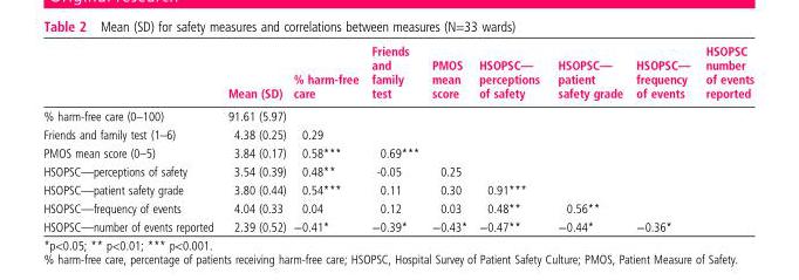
<table><thead><tr><td></td><td>Mean (SD)</td><td>% harm-free care</td><td>Friends and family test</td><td>PMOS mean score</td><td>HSOPSC— perceptions of safety</td><td>HSOPSC— patient safety grade</td><td>HSOPSC— frequency of events</td><td>HSOPSC number of events reported</td></tr></thead><tbody><tr><td>% harm-free care (0–100)</td><td>91.61 (5.97)</td><td></td><td></td><td></td><td></td><td></td><td></td><td></td></tr><tr><td>Friends and family test (1–6)</td><td>4.38 (0.25)</td><td>0.29</td><td></td><td></td><td></td><td></td><td></td><td></td></tr><tr><td>PMOS mean score (0–5)</td><td>3.84 (0.17)</td><td>0.58***</td><td>0.69***</td><td></td><td></td><td></td><td></td><td></td></tr><tr><td>HSOPSC—perceptions of safety</td><td>3.54 (0.39)</td><td>0.48**</td><td>-0.05</td><td>0.25</td><td></td><td></td><td></td><td></td></tr><tr><td>HSOPSC—patient safety grade</td><td>3.80 (0.44)</td><td>0.54***</td><td>0.11</td><td>0.30</td><td>0.91***</td><td></td><td></td><td></td></tr><tr><td>HSOPSC—frequency of events</td><td>4.04 (0.33</td><td>0.04</td><td>0.12</td><td>0.03</td><td>0.48**</td><td>0.56**</td><td></td><td></td></tr><tr><td>HSOPSC—number of events reported</td><td>2.39 (0.52)</td><td>−0.41*</td><td>−0.39*</td><td>−0.43*</td><td>−0.47**</td><td>−0.44*</td><td>−0.36*</td><td></td></tr></tbody></table>